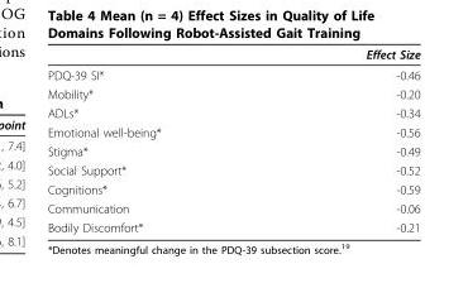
<table><thead><tr><td></td><td>Effect Size</td></tr></thead><tbody><tr><td>PDQ-39 SI*</td><td>-0.46</td></tr><tr><td>Mobility*</td><td>-0.20</td></tr><tr><td>ADLs*</td><td>-0.34</td></tr><tr><td>Emotional well-being*</td><td>-0.56</td></tr><tr><td>Stigma*</td><td>-0.49</td></tr><tr><td>Social Support*</td><td>-0.52</td></tr><tr><td>Cognitions*</td><td>-0.59</td></tr><tr><td>Communication</td><td>-0.06</td></tr><tr><td>Bodily Discomfort*</td><td>-0.21</td></tr></tbody></table>